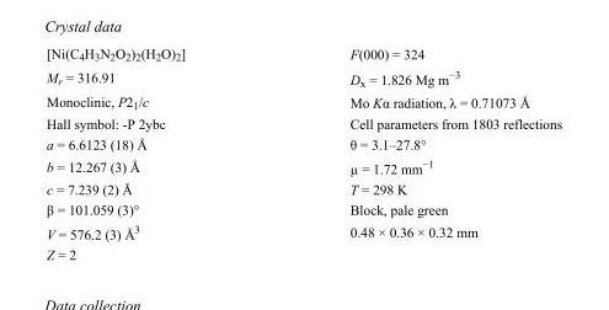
<table><tbody><tr><td>[Ni(C<sub>4</sub>H<sub>3</sub>N<sub>2</sub>O<sub>2</sub>)<sub>2</sub>(H<sub>2</sub>O)<sub>2</sub>]</td><td>F(000) = 324</td></tr><tr><td>M<sub>r</sub> = 316.91</td><td>D<sub>x</sub> = 1.826 Mg m<sup>−3</sup></td></tr><tr><td>Monoclinic, P2<sub>1</sub>/c</td><td>Mo Kα radiation, λ = 0.71073 Å</td></tr><tr><td>Hall symbol: -P 2ybc</td><td>Cell parameters from 1803 reflections</td></tr><tr><td>a = 6.6123 (18) Å</td><td>θ = 3.1–27.8°</td></tr><tr><td>b = 12.267 (3) Å</td><td>µ = 1.72 mm<sup>−1</sup></td></tr><tr><td>c = 7.239 (2) Å</td><td>T = 298 K</td></tr><tr><td>β = 101.059 (3)°</td><td>Block, pale green</td></tr><tr><td>V = 576.2 (3) Å<sup>3</sup></td><td>0.48 × 0.36 × 0.32 mm</td></tr><tr><td>Z = 2</td><td></td></tr></tbody></table>